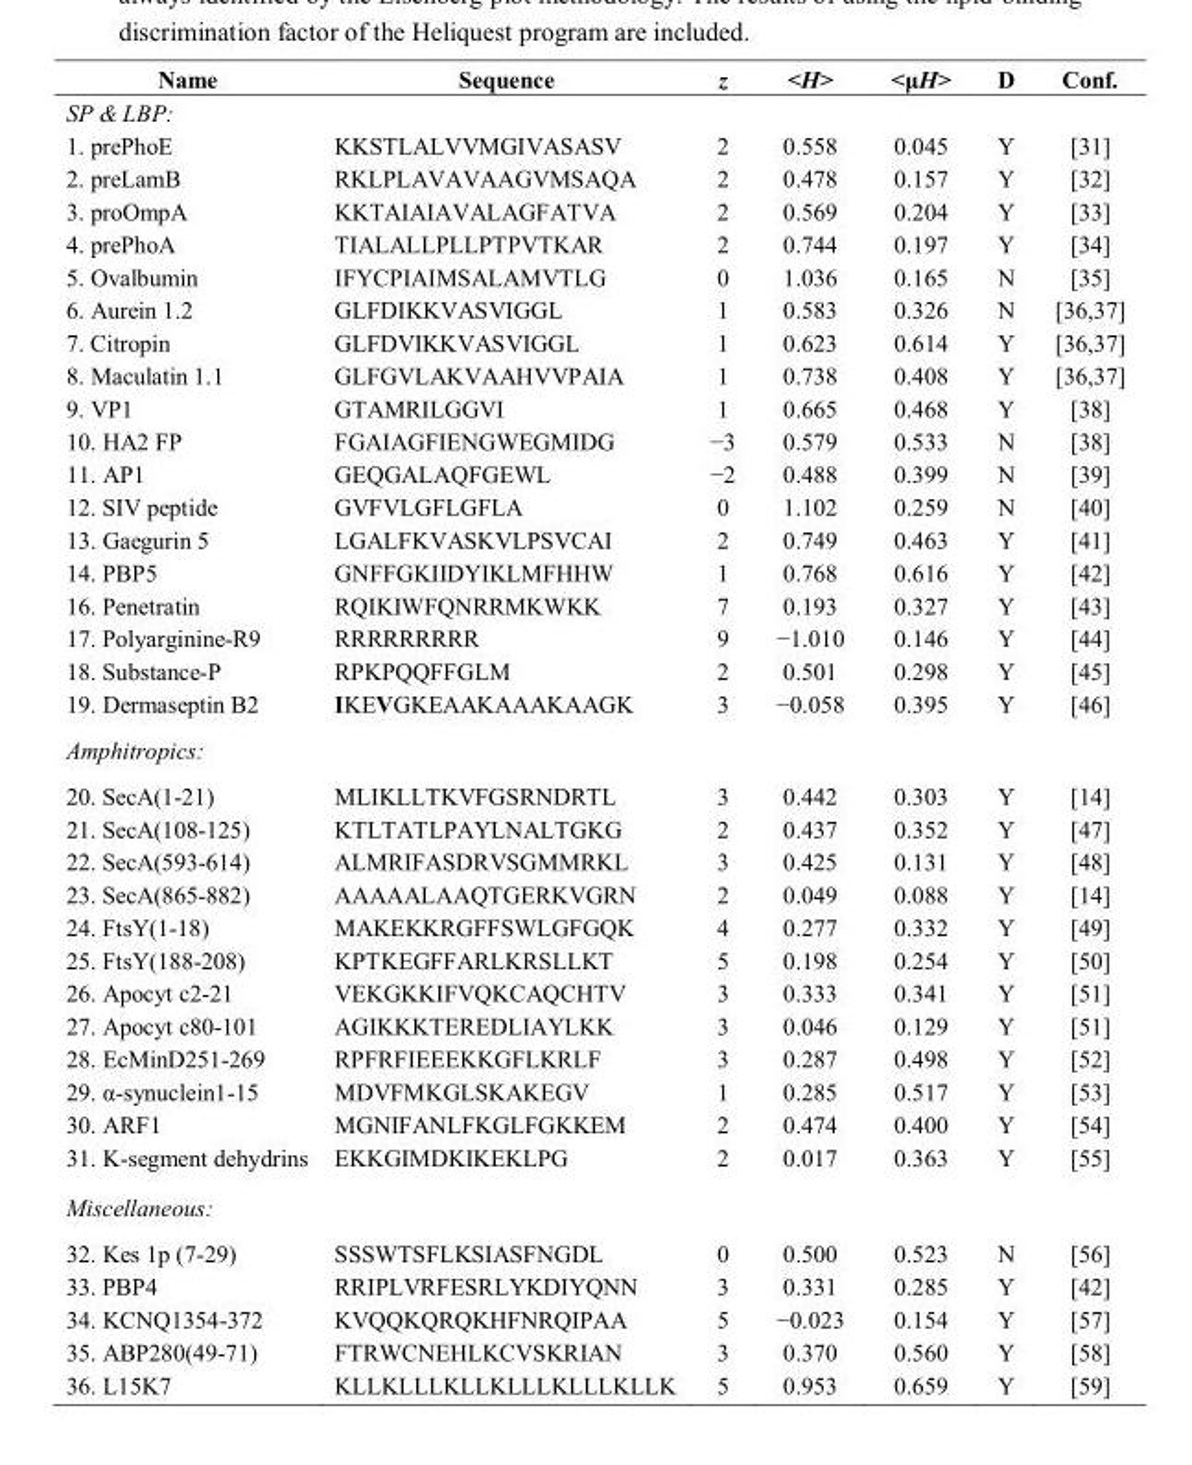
<table><thead><tr><td>Name</td><td>Sequence</td><td>z</td><td>&lt;H&gt;</td><td>&lt;μH&gt;</td><td>D</td><td>Conf.</td></tr></thead><tbody><tr><td colspan="7">SP &amp; LBP:</td></tr><tr><td>1. prePhoE</td><td>KKSTLALVVMGIVASASV</td><td>2</td><td>0.558</td><td>0.045</td><td>Y</td><td>[31]</td></tr><tr><td>2. preLamB</td><td>RKLPLAVAVAAGVMSAQA</td><td>2</td><td>0.478</td><td>0.157</td><td>Y</td><td>[32]</td></tr><tr><td>3. proOmpA</td><td>KKTAIAIAVALAGFATVA</td><td>2</td><td>0.569</td><td>0.204</td><td>Y</td><td>[33]</td></tr><tr><td>4. prePhoA</td><td>TIALALLPLLPTPVTKAR</td><td>2</td><td>0.744</td><td>0.197</td><td>Y</td><td>[34]</td></tr><tr><td>5. Ovalbumin</td><td>IFYCPIAIMSALAMVTLG</td><td>0</td><td>1.036</td><td>0.165</td><td>N</td><td>[35]</td></tr><tr><td>6. Aurein 1.2</td><td>GLFDIKKVASVIGGL</td><td>1</td><td>0.583</td><td>0.326</td><td>N</td><td>[36,37]</td></tr><tr><td>7. Citropin</td><td>GLFDVIKKVASVIGGL</td><td>1</td><td>0.623</td><td>0.614</td><td>Y</td><td>[36,37]</td></tr><tr><td>8. Maculatin 1.1</td><td>GLFGVLAKVAAHVVPAIA</td><td>1</td><td>0.738</td><td>0.408</td><td>Y</td><td>[36,37]</td></tr><tr><td>9. VP1</td><td>GTAMRILGGVI</td><td>1</td><td>0.665</td><td>0.468</td><td>Y</td><td>[38]</td></tr><tr><td>10. HA2 FP</td><td>FGAIAGFIENGWEGMIDG</td><td>−3</td><td>0.579</td><td>0.533</td><td>N</td><td>[38]</td></tr><tr><td>11. AP1</td><td>GEQGALAQFGEWL</td><td>−2</td><td>0.488</td><td>0.399</td><td>N</td><td>[39]</td></tr><tr><td>12. SIV peptide</td><td>GVFVLGFLGFLA</td><td>0</td><td>1.102</td><td>0.259</td><td>N</td><td>[40]</td></tr><tr><td>13. Gaegurin 5</td><td>LGALFKVASKVLPSVCAI</td><td>2</td><td>0.749</td><td>0.463</td><td>Y</td><td>[41]</td></tr><tr><td>14. PBP5</td><td>GNFFGKIIDYIKLMFHHW</td><td>1</td><td>0.768</td><td>0.616</td><td>Y</td><td>[42]</td></tr><tr><td>16. Penetratin</td><td>RQIKIWFQNRRMKWKK</td><td>7</td><td>0.193</td><td>0.327</td><td>Y</td><td>[43]</td></tr><tr><td>17. Polyarginine-R9</td><td>RRRRRRRRR</td><td>9</td><td>−1.010</td><td>0.146</td><td>Y</td><td>[44]</td></tr><tr><td>18. Substance-P</td><td>RPKPQQFFGLM</td><td>2</td><td>0.501</td><td>0.298</td><td>Y</td><td>[45]</td></tr><tr><td>19. Dermaseptin B2</td><td>IKEVGKEAAKAAAKAAGK</td><td>3</td><td>−0.058</td><td>0.395</td><td>Y</td><td>[46]</td></tr><tr><td colspan="7">Amphitropics:</td></tr><tr><td>20. SecA(1-21)</td><td>MLIKLLTKVFGSRNDRTL</td><td>3</td><td>0.442</td><td>0.303</td><td>Y</td><td>[14]</td></tr><tr><td>21. SecA(108-125)</td><td>KTLTATLPAYLNALTGKG</td><td>2</td><td>0.437</td><td>0.352</td><td>Y</td><td>[47]</td></tr><tr><td>22. SecA(593-614)</td><td>ALMRIFASDRVSGMMRKL</td><td>3</td><td>0.425</td><td>0.131</td><td>Y</td><td>[48]</td></tr><tr><td>23. SecA(865-882)</td><td>AAAAALAAQTGERKVGRN</td><td>2</td><td>0.049</td><td>0.088</td><td>Y</td><td>[14]</td></tr><tr><td>24. FtsY(1-18)</td><td>MAKEKKRGFFSWLGFGQK</td><td>4</td><td>0.277</td><td>0.332</td><td>Y</td><td>[49]</td></tr><tr><td>25. FtsY(188-208)</td><td>KPTKEGFFARLKRSLLKT</td><td>5</td><td>0.198</td><td>0.254</td><td>Y</td><td>[50]</td></tr><tr><td>26. Apocyt c2-21</td><td>VEKGKKIFVQKCAQCHTV</td><td>3</td><td>0.333</td><td>0.341</td><td>Y</td><td>[51]</td></tr><tr><td>27. Apocyt c80-101</td><td>AGIKKKTEREDLIAYLKK</td><td>3</td><td>0.046</td><td>0.129</td><td>Y</td><td>[51]</td></tr><tr><td>28. EcMinD251-269</td><td>RPFRFIEEEKKGFLKRLF</td><td>3</td><td>0.287</td><td>0.498</td><td>Y</td><td>[52]</td></tr><tr><td>29. α-synuclein1-15</td><td>MDVFMKGLSKAKEGV</td><td>1</td><td>0.285</td><td>0.517</td><td>Y</td><td>[53]</td></tr><tr><td>30. ARF1</td><td>MGNIFANLFKGLFGKKEM</td><td>2</td><td>0.474</td><td>0.400</td><td>Y</td><td>[54]</td></tr><tr><td>31. K-segment dehydrins</td><td>EKKGIMDKIKEKLPG</td><td>2</td><td>0.017</td><td>0.363</td><td>Y</td><td>[55]</td></tr><tr><td colspan="7">Miscellaneous:</td></tr><tr><td>32. Kes 1p (7-29)</td><td>SSSWTSFLKSIASFNGDL</td><td>0</td><td>0.500</td><td>0.523</td><td>N</td><td>[56]</td></tr><tr><td>33. PBP4</td><td>RRIPLVRFESRLYKDIYQNN</td><td>3</td><td>0.331</td><td>0.285</td><td>Y</td><td>[42]</td></tr><tr><td>34. KCNQ1354-372</td><td>KVQQKQRQKHFNRQIPAA</td><td>5</td><td>−0.023</td><td>0.154</td><td>Y</td><td>[57]</td></tr><tr><td>35. ABP280(49-71)</td><td>FTRWCNEHLKCVSKRIAN</td><td>3</td><td>0.370</td><td>0.560</td><td>Y</td><td>[58]</td></tr><tr><td>36. L15K7</td><td>KLLKLLLKLLKLLLKLLLKLLK</td><td>5</td><td>0.953</td><td>0.659</td><td>Y</td><td>[59]</td></tr></tbody></table>